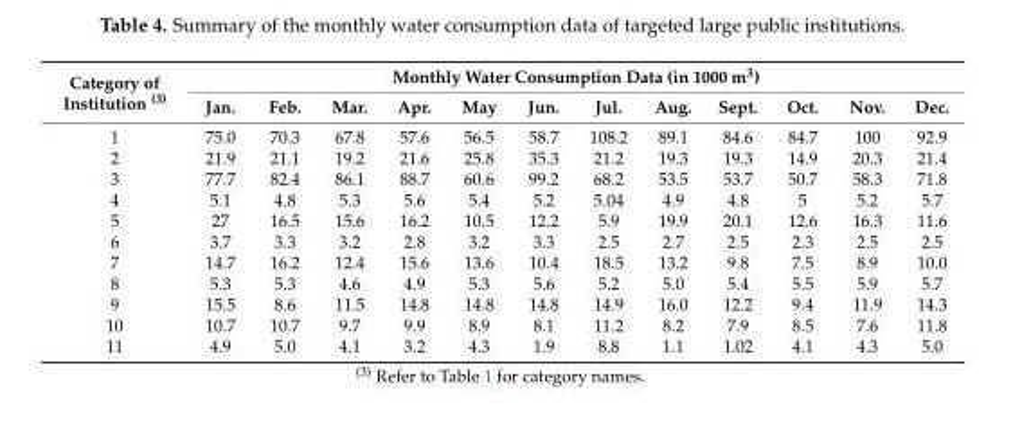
<table><thead><tr><td rowspan="2">Category of Institution <sup>(3)</sup></td><td colspan="12">Monthly Water Consumption Data (in 1000 m<sup>3</sup>)</td></tr><tr><td>Jan.</td><td>Feb.</td><td>Mar.</td><td>Apr.</td><td>May</td><td>Jun.</td><td>Jul.</td><td>Aug.</td><td>Sept.</td><td>Oct.</td><td>Nov.</td><td>Dec.</td></tr></thead><tbody><tr><td>1</td><td>75.0</td><td>70.3</td><td>67.8</td><td>57.6</td><td>56.5</td><td>58.7</td><td>108.2</td><td>89.1</td><td>84.6</td><td>84.7</td><td>100</td><td>92.9</td></tr><tr><td>2</td><td>21.9</td><td>21.1</td><td>19.2</td><td>21.6</td><td>25.8</td><td>35.3</td><td>21.2</td><td>19.3</td><td>19.3</td><td>14.9</td><td>20.3</td><td>21.4</td></tr><tr><td>3</td><td>77.7</td><td>82.4</td><td>86.1</td><td>88.7</td><td>60.6</td><td>99.2</td><td>68.2</td><td>53.5</td><td>53.7</td><td>50.7</td><td>58.3</td><td>71.8</td></tr><tr><td>4</td><td>5.1</td><td>4.8</td><td>5.3</td><td>5.6</td><td>5.4</td><td>5.2</td><td>5.04</td><td>4.9</td><td>4.8</td><td>5</td><td>5.2</td><td>5.7</td></tr><tr><td>5</td><td>27</td><td>16.5</td><td>15.6</td><td>16.2</td><td>10.5</td><td>12.2</td><td>5.9</td><td>19.9</td><td>20.1</td><td>12.6</td><td>16.3</td><td>11.6</td></tr><tr><td>6</td><td>3.7</td><td>3.3</td><td>3.2</td><td>2.8</td><td>3.2</td><td>3.3</td><td>2.5</td><td>2.7</td><td>2.5</td><td>2.3</td><td>2.5</td><td>2.5</td></tr><tr><td>7</td><td>14.7</td><td>16.2</td><td>12.4</td><td>15.6</td><td>13.6</td><td>10.4</td><td>18.5</td><td>13.2</td><td>9.8</td><td>7.5</td><td>8.9</td><td>10.0</td></tr><tr><td>8</td><td>5.3</td><td>5.3</td><td>4.6</td><td>4.9</td><td>5.3</td><td>5.6</td><td>5.2</td><td>5.0</td><td>5.4</td><td>5.5</td><td>5.9</td><td>5.7</td></tr><tr><td>9</td><td>15.5</td><td>8.6</td><td>11.5</td><td>14.8</td><td>14.8</td><td>14.8</td><td>14.9</td><td>16.0</td><td>12.2</td><td>9.4</td><td>11.9</td><td>14.3</td></tr><tr><td>10</td><td>10.7</td><td>10.7</td><td>9.7</td><td>9.9</td><td>8.9</td><td>8.1</td><td>11.2</td><td>8.2</td><td>7.9</td><td>8.5</td><td>7.6</td><td>11.8</td></tr><tr><td>11</td><td>4.9</td><td>5.0</td><td>4.1</td><td>3.2</td><td>4.3</td><td>1.9</td><td>8.8</td><td>1.1</td><td>1.02</td><td>4.1</td><td>4.3</td><td>5.0</td></tr></tbody></table>